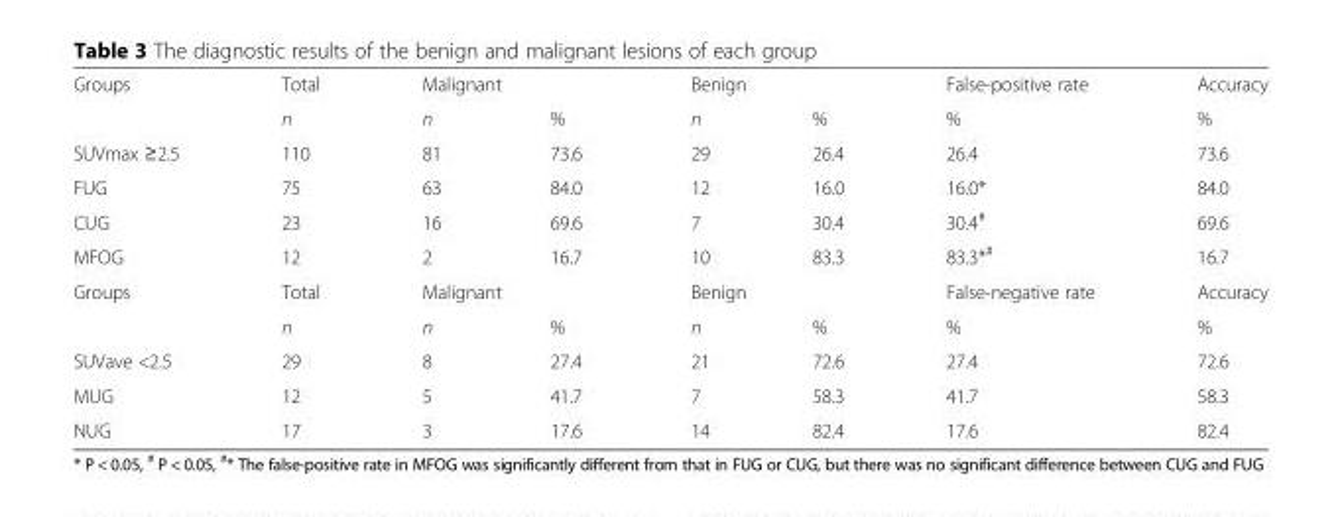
<table><tbody><tr><td rowspan="2">Groups</td><td>Total</td><td colspan="2">Malignant</td><td colspan="2">Benign</td><td>False-positive rate</td><td>Accuracy</td></tr><tr><td>n</td><td>n</td><td>%</td><td>n</td><td>%</td><td>%</td><td>%</td></tr><tr><td>SUVmax ≥2.5</td><td>110</td><td>81</td><td>73.6</td><td>29</td><td>26.4</td><td>26.4</td><td>73.6</td></tr><tr><td>FUG</td><td>75</td><td>63</td><td>84.0</td><td>12</td><td>16.0</td><td>16.0*</td><td>84.0</td></tr><tr><td>CUG</td><td>23</td><td>16</td><td>69.6</td><td>7</td><td>30.4</td><td>30.4<sup>#</sup></td><td>69.6</td></tr><tr><td>MFOG</td><td>12</td><td>2</td><td>16.7</td><td>10</td><td>83.3</td><td>83.3*<sup>#</sup></td><td>16.7</td></tr><tr><td rowspan="2">Groups</td><td>Total</td><td colspan="2">Malignant</td><td colspan="2">Benign</td><td>False-negative rate</td><td>Accuracy</td></tr><tr><td>n</td><td>n</td><td>%</td><td>n</td><td>%</td><td>%</td><td>%</td></tr><tr><td>SUVave &lt;2.5</td><td>29</td><td>8</td><td>27.4</td><td>21</td><td>72.6</td><td>27.4</td><td>72.6</td></tr><tr><td>MUG</td><td>12</td><td>5</td><td>41.7</td><td>7</td><td>58.3</td><td>41.7</td><td>58.3</td></tr><tr><td>NUG</td><td>17</td><td>3</td><td>17.6</td><td>14</td><td>82.4</td><td>17.6</td><td>82.4</td></tr></tbody></table>